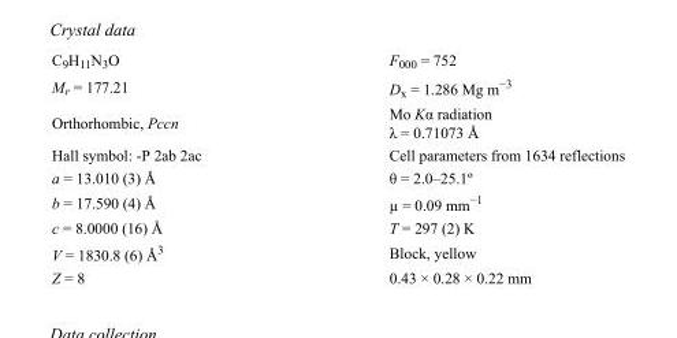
<table><tbody><tr><td>C<sub>9</sub>H<sub>11</sub>N<sub>3</sub>O</td><td>F000 = 752</td></tr><tr><td>M<sub>r</sub> = 177.21</td><td>D<sub>x</sub> = 1.286 Mg m<sup>−3</sup></td></tr><tr><td>Orthorhombic, Pccn</td><td>Mo Kα radiation λ = 0.71073 Å</td></tr><tr><td>Hall symbol: -P 2ab 2ac</td><td>Cell parameters from 1634 reflections</td></tr><tr><td>a = 13.010 (3) Å</td><td>θ = 2.0–25.1º</td></tr><tr><td>b = 17.590 (4) Å</td><td>µ = 0.09 mm<sup>−1</sup></td></tr><tr><td>c = 8.0000 (16) Å</td><td>T = 297 (2) K</td></tr><tr><td>V = 1830.8 (6) Å<sup>3</sup></td><td>Block, yellow</td></tr><tr><td>Z = 8</td><td>0.43 × 0.28 × 0.22 mm</td></tr></tbody></table>